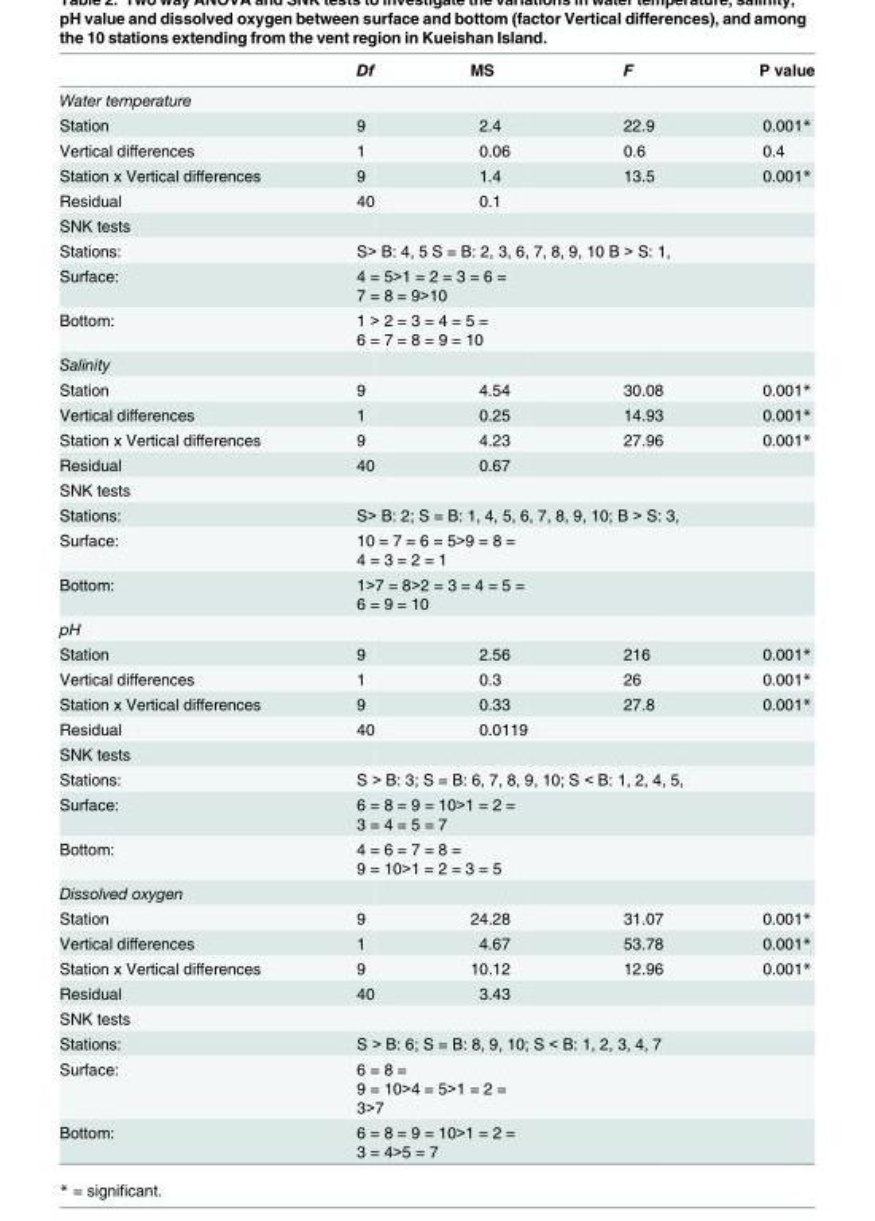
<table><thead><tr><td></td><td>Df</td><td>MS</td><td>F</td><td>P value</td></tr></thead><tbody><tr><td colspan="5">Water temperature</td></tr><tr><td>Station</td><td>9</td><td>2.4</td><td>22.9</td><td>0.001*</td></tr><tr><td>Vertical differences</td><td>1</td><td>0.06</td><td>0.6</td><td>0.4</td></tr><tr><td>Station x Vertical differences</td><td>9</td><td>1.4</td><td>13.5</td><td>0.001*</td></tr><tr><td>Residual</td><td>40</td><td>0.1</td><td></td><td></td></tr><tr><td colspan="5">SNK tests</td></tr><tr><td>Stations:</td><td colspan="4">S&gt; B: 4, 5 S = B: 2, 3, 6, 7, 8, 9, 10 B &gt; S: 1,</td></tr><tr><td>Surface:</td><td colspan="2">4 = 5&gt;1 = 2 = 3 = 6 = 7 = 8 = 9&gt;10</td><td></td><td></td></tr><tr><td>Bottom:</td><td colspan="2">1 &gt; 2 = 3 = 4 = 5 = 6 = 7 = 8 = 9 = 10</td><td></td><td></td></tr><tr><td colspan="5">Salinity</td></tr><tr><td>Station</td><td>9</td><td>4.54</td><td>30.08</td><td>0.001*</td></tr><tr><td>Vertical differences</td><td>1</td><td>0.25</td><td>14.93</td><td>0.001*</td></tr><tr><td>Station x Vertical differences</td><td>9</td><td>4.23</td><td>27.96</td><td>0.001*</td></tr><tr><td>Residual</td><td>40</td><td>0.67</td><td></td><td></td></tr><tr><td colspan="5">SNK tests</td></tr><tr><td>Stations:</td><td colspan="4">S&gt; B: 2; S = B: 1, 4, 5, 6, 7, 8, 9, 10; B &gt; S: 3,</td></tr><tr><td>Surface:</td><td colspan="2">10 = 7 = 6 = 5&gt;9 = 8 = 4 = 3 = 2 = 1</td><td></td><td></td></tr><tr><td>Bottom:</td><td colspan="2">1&gt;7 = 8&gt;2 = 3 = 4 = 5 = 6 = 9 = 10</td><td></td><td></td></tr><tr><td colspan="5">pH</td></tr><tr><td>Station</td><td>9</td><td>2.56</td><td>216</td><td>0.001*</td></tr><tr><td>Vertical differences</td><td>1</td><td>0.3</td><td>26</td><td>0.001*</td></tr><tr><td>Station x Vertical differences</td><td>9</td><td>0.33</td><td>27.8</td><td>0.001*</td></tr><tr><td>Residual</td><td>40</td><td>0.0119</td><td></td><td></td></tr><tr><td colspan="5">SNK tests</td></tr><tr><td>Stations:</td><td colspan="4">S &gt; B: 3; S = B: 6, 7, 8, 9, 10; S &lt; B: 1, 2, 4, 5,</td></tr><tr><td>Surface:</td><td colspan="2">6 = 8 = 9 = 10&gt;1 = 2 = 3 = 4 = 5 = 7</td><td></td><td></td></tr><tr><td>Bottom:</td><td colspan="2">4 = 6 = 7 = 8 = 9 = 10&gt;1 = 2 = 3 = 5</td><td></td><td></td></tr><tr><td colspan="5">Dissolved oxygen</td></tr><tr><td>Station</td><td>9</td><td>24.28</td><td>31.07</td><td>0.001*</td></tr><tr><td>Vertical differences</td><td>1</td><td>4.67</td><td>53.78</td><td>0.001*</td></tr><tr><td>Station x Vertical differences</td><td>9</td><td>10.12</td><td>12.96</td><td>0.001*</td></tr><tr><td>Residual</td><td>40</td><td>3.43</td><td></td><td></td></tr><tr><td colspan="5">SNK tests</td></tr><tr><td>Stations:</td><td colspan="4">S &gt; B: 6; S = B: 8, 9, 10; S &lt; B: 1, 2, 3, 4, 7</td></tr><tr><td>Surface:</td><td colspan="2">6 = 8 = 9 = 10&gt;4 = 5&gt;1 = 2 = 3&gt;7</td><td></td><td></td></tr><tr><td>Bottom:</td><td colspan="2">6 = 8 = 9 = 10&gt;1 = 2 = 3 = 4&gt;5 = 7</td><td></td><td></td></tr></tbody></table>